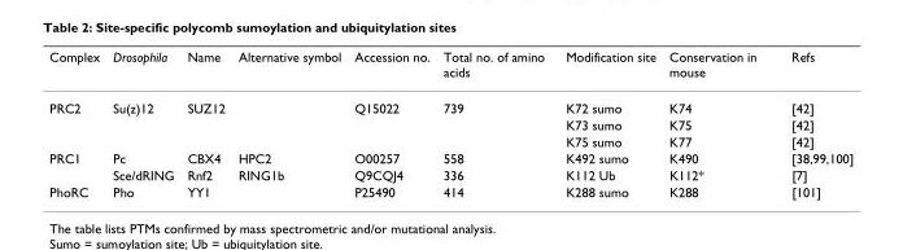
<table><thead><tr><td>Complex</td><td>Drosophila</td><td>Name</td><td>Alternative symbol</td><td>Accession no.</td><td>Total no. of amino acids</td><td>Modification site</td><td>Conservation in mouse</td><td>Refs</td></tr></thead><tbody><tr><td rowspan="3">PRC2</td><td>Su(z)12</td><td>SUZ12</td><td></td><td>Q15022</td><td>739</td><td>K72 sumo</td><td>K74</td><td>[42]</td></tr><tr><td></td><td></td><td></td><td></td><td></td><td>K73 sumo</td><td>K75</td><td>[42]</td></tr><tr><td></td><td></td><td></td><td></td><td></td><td>K75 sumo</td><td>K77</td><td>[42]</td></tr><tr><td rowspan="2">PRC1</td><td>Pc</td><td>CBX4</td><td>HPC2</td><td>O00257</td><td>558</td><td>K492 sumo</td><td>K490</td><td>[38,99,100]</td></tr><tr><td>Sce/dRING</td><td>Rnf2</td><td>RING1b</td><td>Q9CQJ4</td><td>336</td><td>K112 Ub</td><td>K112*</td><td>[7]</td></tr><tr><td>PhoRC</td><td>Pho</td><td>YY1</td><td></td><td>P25490</td><td>414</td><td>K288 sumo</td><td>K288</td><td>[101]</td></tr></tbody></table>